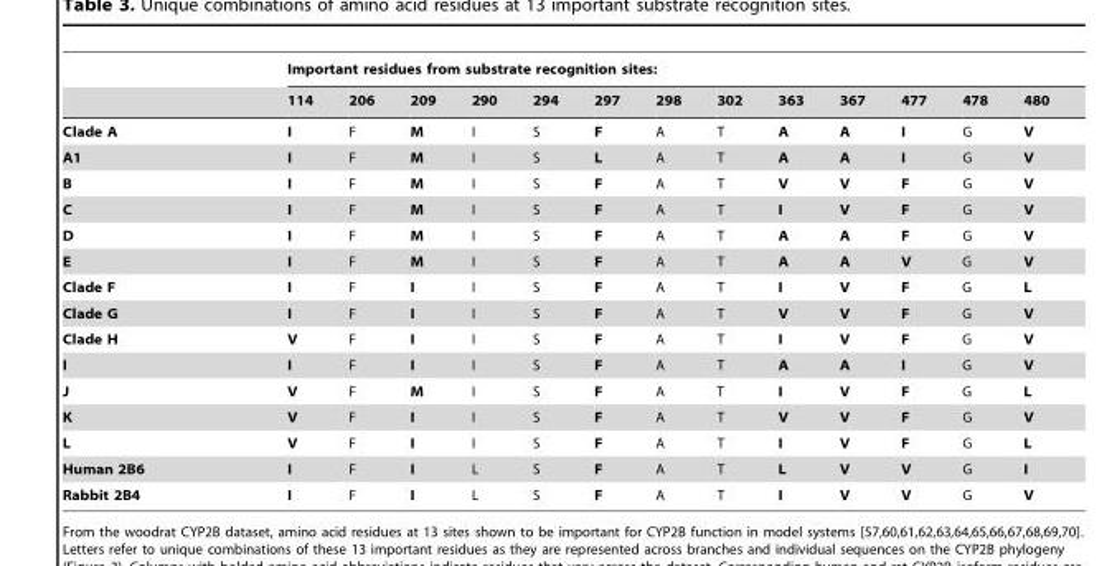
<table><thead><tr><td rowspan="2"></td><td colspan="13">Important residues from substrate recognition sites:</td></tr><tr><td>114</td><td>206</td><td>209</td><td>290</td><td>294</td><td>297</td><td>298</td><td>302</td><td>363</td><td>367</td><td>477</td><td>478</td><td>480</td></tr></thead><tbody><tr><td>Clade A</td><td>I</td><td>F</td><td>M</td><td>I</td><td>S</td><td>F</td><td>A</td><td>T</td><td>A</td><td>A</td><td>I</td><td>G</td><td>V</td></tr><tr><td>A1</td><td>I</td><td>F</td><td>M</td><td>I</td><td>S</td><td>L</td><td>A</td><td>T</td><td>A</td><td>A</td><td>I</td><td>G</td><td>V</td></tr><tr><td>B</td><td>I</td><td>F</td><td>M</td><td>I</td><td>S</td><td>F</td><td>A</td><td>T</td><td>V</td><td>V</td><td>F</td><td>G</td><td>V</td></tr><tr><td>C</td><td>I</td><td>F</td><td>M</td><td>I</td><td>S</td><td>F</td><td>A</td><td>T</td><td>I</td><td>V</td><td>F</td><td>G</td><td>V</td></tr><tr><td>D</td><td>I</td><td>F</td><td>M</td><td>I</td><td>S</td><td>F</td><td>A</td><td>T</td><td>A</td><td>A</td><td>F</td><td>G</td><td>V</td></tr><tr><td>E</td><td>I</td><td>F</td><td>M</td><td>I</td><td>S</td><td>F</td><td>A</td><td>T</td><td>A</td><td>A</td><td>V</td><td>G</td><td>V</td></tr><tr><td>Clade F</td><td>I</td><td>F</td><td>I</td><td>I</td><td>S</td><td>F</td><td>A</td><td>T</td><td>I</td><td>V</td><td>F</td><td>G</td><td>L</td></tr><tr><td>Clade G</td><td>I</td><td>F</td><td>I</td><td>I</td><td>S</td><td>F</td><td>A</td><td>T</td><td>V</td><td>V</td><td>F</td><td>G</td><td>V</td></tr><tr><td>Clade H</td><td>V</td><td>F</td><td>I</td><td>I</td><td>S</td><td>F</td><td>A</td><td>T</td><td>I</td><td>V</td><td>F</td><td>G</td><td>V</td></tr><tr><td>I</td><td>I</td><td>F</td><td>I</td><td>I</td><td>S</td><td>F</td><td>A</td><td>T</td><td>A</td><td>A</td><td>I</td><td>G</td><td>V</td></tr><tr><td>J</td><td>V</td><td>F</td><td>M</td><td>I</td><td>S</td><td>F</td><td>A</td><td>T</td><td>I</td><td>V</td><td>F</td><td>G</td><td>L</td></tr><tr><td>K</td><td>V</td><td>F</td><td>I</td><td>I</td><td>S</td><td>F</td><td>A</td><td>T</td><td>V</td><td>V</td><td>F</td><td>G</td><td>V</td></tr><tr><td>L</td><td>V</td><td>F</td><td>I</td><td>I</td><td>S</td><td>F</td><td>A</td><td>T</td><td>I</td><td>V</td><td>F</td><td>G</td><td>L</td></tr><tr><td>Human 2B6</td><td>I</td><td>F</td><td>I</td><td>L</td><td>S</td><td>F</td><td>A</td><td>T</td><td>L</td><td>V</td><td>V</td><td>G</td><td>I</td></tr><tr><td>Rabbit 2B4</td><td>I</td><td>F</td><td>I</td><td>L</td><td>S</td><td>F</td><td>A</td><td>T</td><td>I</td><td>V</td><td>V</td><td>G</td><td>V</td></tr></tbody></table>